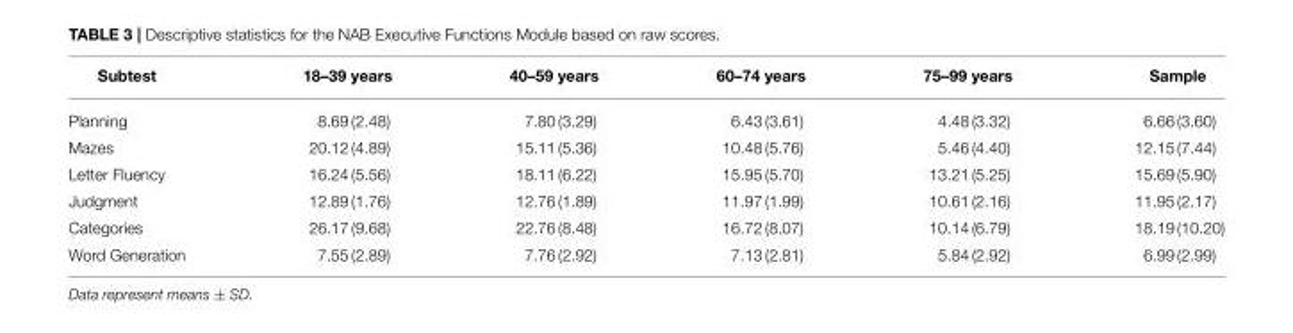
<table><thead><tr><td>Subtest</td><td>18–39 years</td><td>40–59 years</td><td>60–74 years</td><td>75–99 years</td><td>Sample</td></tr></thead><tbody><tr><td>Planning</td><td>8.69 (2.48)</td><td>7.80 (3.29)</td><td>6.43 (3.61)</td><td>4.48 (3.32)</td><td>6.66 (3.60)</td></tr><tr><td>Mazes</td><td>20.12 (4.89)</td><td>15.11 (5.36)</td><td>10.48 (5.76)</td><td>5.46 (4.40)</td><td>12.15 (7.44)</td></tr><tr><td>Letter Fluency</td><td>16.24 (5.56)</td><td>18.11 (6.22)</td><td>15.95 (5.70)</td><td>13.21 (5.25)</td><td>15.69 (5.90)</td></tr><tr><td>Judgment</td><td>12.89 (1.76)</td><td>12.76 (1.89)</td><td>11.97 (1.99)</td><td>10.61 (2.16)</td><td>11.95 (2.17)</td></tr><tr><td>Categories</td><td>26.17 (9.68)</td><td>22.76 (8.48)</td><td>16.72 (8.07)</td><td>10.14 (6.79)</td><td>18.19 (10.20)</td></tr><tr><td>Word Generation</td><td>7.55 (2.89)</td><td>7.76 (2.92)</td><td>7.13 (2.81)</td><td>5.84 (2.92)</td><td>6.99 (2.99)</td></tr></tbody></table>